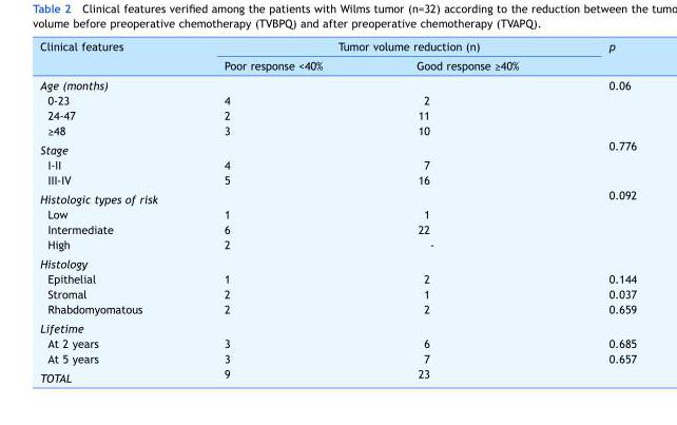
<table><thead><tr><td rowspan="2">Clinical features</td><td colspan="2">Tumor volume reduction (n)</td><td rowspan="2">p</td></tr><tr><td>Poor response &lt;40%</td><td>Good response ≥40%</td></tr></thead><tbody><tr><td>Age (months)</td><td></td><td></td><td>0.06</td></tr><tr><td>0-23</td><td>4</td><td>2</td><td></td></tr><tr><td>24-47</td><td>2</td><td>11</td><td></td></tr><tr><td>≥48</td><td>3</td><td>10</td><td></td></tr><tr><td>Stage</td><td></td><td></td><td>0.776</td></tr><tr><td>I-II</td><td>4</td><td>7</td><td></td></tr><tr><td>III-IV</td><td>5</td><td>16</td><td></td></tr><tr><td>Histologic types of risk</td><td></td><td></td><td>0.092</td></tr><tr><td>Low</td><td>1</td><td>1</td><td></td></tr><tr><td>Intermediate</td><td>6</td><td>22</td><td></td></tr><tr><td>High</td><td>2</td><td>-</td><td></td></tr><tr><td colspan="4">Histology</td></tr><tr><td>Epithelial</td><td>1</td><td>2</td><td>0.144</td></tr><tr><td>Stromal</td><td>2</td><td>1</td><td>0.037</td></tr><tr><td>Rhabdomyomatous</td><td>2</td><td>2</td><td>0.659</td></tr><tr><td colspan="4">Lifetime</td></tr><tr><td>At 2 years</td><td>3</td><td>6</td><td>0.685</td></tr><tr><td>At 5 years</td><td>3</td><td>7</td><td>0.657</td></tr><tr><td>TOTAL</td><td>9</td><td>23</td><td></td></tr></tbody></table>